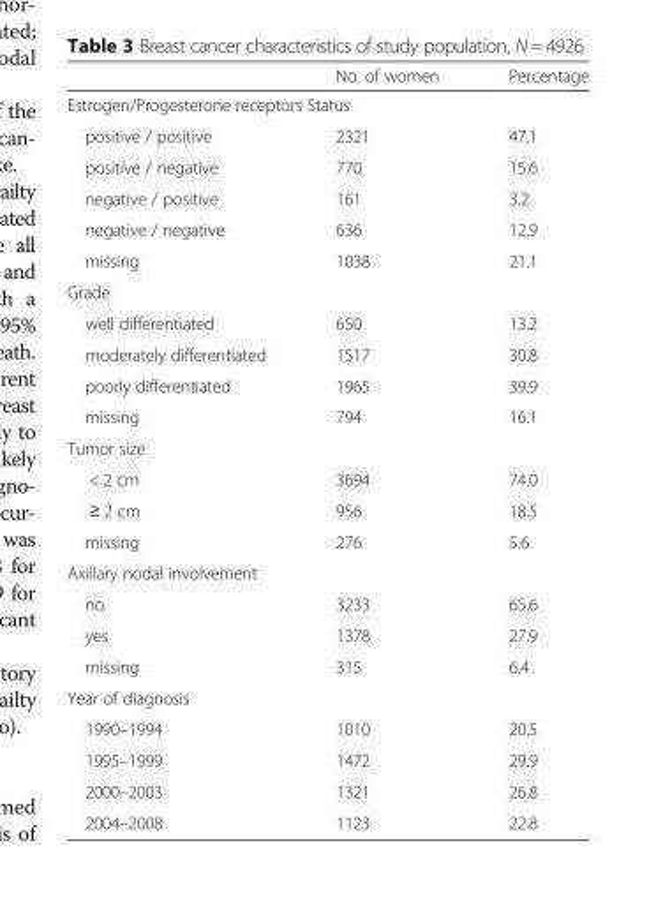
<table><thead><tr><td></td><td>No. of women</td><td>Percentage</td></tr></thead><tbody><tr><td colspan="3">Estrogen/Progesterone receptors Status</td></tr><tr><td>positive / positive</td><td>2321</td><td>47.1</td></tr><tr><td>positive / negative</td><td>770</td><td>15.6</td></tr><tr><td>negative / positive</td><td>161</td><td>3.2</td></tr><tr><td>negative / negative</td><td>636</td><td>12.9</td></tr><tr><td>missing</td><td>1038</td><td>21.1</td></tr><tr><td colspan="3">Grade</td></tr><tr><td>well differentiated</td><td>650</td><td>13.2</td></tr><tr><td>moderately differentiated</td><td>1517</td><td>30.8</td></tr><tr><td>poorly differentiated</td><td>1965</td><td>39.9</td></tr><tr><td>missing</td><td>794</td><td>16.1</td></tr><tr><td colspan="3">Tumor size</td></tr><tr><td>&lt; 2 cm</td><td>3694</td><td>74.0</td></tr><tr><td>≥ 2 cm</td><td>956</td><td>18.5</td></tr><tr><td>missing</td><td>276</td><td>5.6</td></tr><tr><td colspan="3">Axillary nodal involvement</td></tr><tr><td>no</td><td>3233</td><td>65.6</td></tr><tr><td>yes</td><td>1378</td><td>27.9</td></tr><tr><td>missing</td><td>315</td><td>6.4</td></tr><tr><td colspan="3">Year of diagnosis</td></tr><tr><td>1990–1994</td><td>1010</td><td>20.5</td></tr><tr><td>1995–1999</td><td>1472</td><td>29.9</td></tr><tr><td>2000–2003</td><td>1321</td><td>26.8</td></tr><tr><td>2004–2008</td><td>1123</td><td>22.8</td></tr></tbody></table>